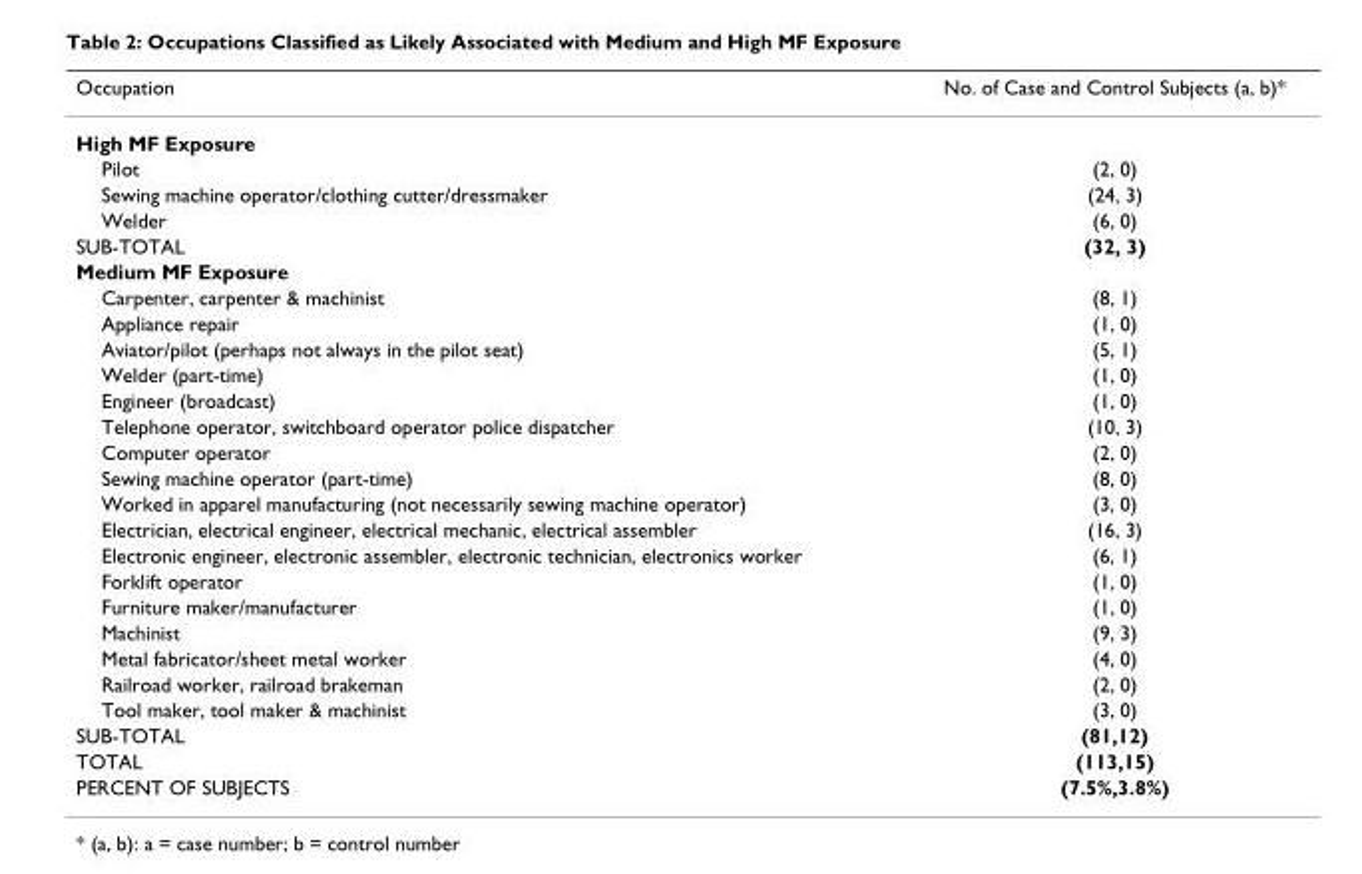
<table><thead><tr><td>Occupation</td><td>No. of Case and Control Subjects (a, b)*</td></tr></thead><tbody><tr><td colspan="2">High MF Exposure</td></tr><tr><td>Pilot</td><td>(2, 0)</td></tr><tr><td>Sewing machine operator/clothing cutter/dressmaker</td><td>(24, 3)</td></tr><tr><td>Welder</td><td>(6, 0)</td></tr><tr><td>SUB-TOTAL</td><td>(32, 3)</td></tr><tr><td colspan="2">Medium MF Exposure</td></tr><tr><td>Carpenter, carpenter &amp; machinist</td><td>(8, 1)</td></tr><tr><td>Appliance repair</td><td>(1, 0)</td></tr><tr><td>Aviator/pilot (perhaps not always in the pilot seat)</td><td>(5, 1)</td></tr><tr><td>Welder (part-time)</td><td>(1, 0)</td></tr><tr><td>Engineer (broadcast)</td><td>(1, 0)</td></tr><tr><td>Telephone operator, switchboard operator police dispatcher</td><td>(10, 3)</td></tr><tr><td>Computer operator</td><td>(2, 0)</td></tr><tr><td>Sewing machine operator (part-time)</td><td>(8, 0)</td></tr><tr><td>Worked in apparel manufacturing (not necessarily sewing machine operator)</td><td>(3, 0)</td></tr><tr><td>Electrician, electrical engineer, electrical mechanic, electrical assembler</td><td>(16, 3)</td></tr><tr><td>Electronic engineer, electronic assembler, electronic technician, electronics worker</td><td>(6, 1)</td></tr><tr><td>Forklift operator</td><td>(1, 0)</td></tr><tr><td>Furniture maker/manufacturer</td><td>(1, 0)</td></tr><tr><td>Machinist</td><td>(9, 3)</td></tr><tr><td>Metal fabricator/sheet metal worker</td><td>(4, 0)</td></tr><tr><td>Railroad worker, railroad brakeman</td><td>(2, 0)</td></tr><tr><td>Tool maker, tool maker &amp; machinist</td><td>(3, 0)</td></tr><tr><td>SUB-TOTAL</td><td>(81,12)</td></tr><tr><td>TOTAL</td><td>(113,15)</td></tr><tr><td>PERCENT OF SUBJECTS</td><td>(7.5%,3.8%)</td></tr></tbody></table>